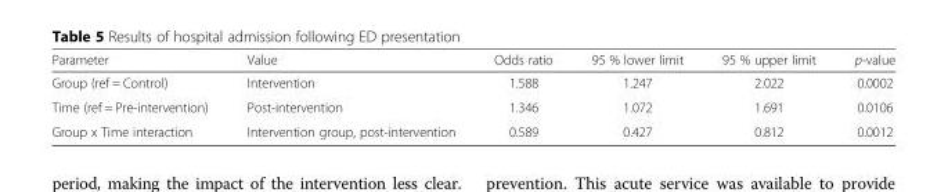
<table><thead><tr><td>Parameter</td><td>Value</td><td>Odds ratio</td><td>95 % lower limit</td><td>95 % upper limit</td><td>p-value</td></tr></thead><tbody><tr><td>Group (ref = Control)</td><td>Intervention</td><td>1.588</td><td>1.247</td><td>2.022</td><td>0.0002</td></tr><tr><td>Time (ref = Pre-intervention)</td><td>Post-intervention</td><td>1.346</td><td>1.072</td><td>1.691</td><td>0.0106</td></tr><tr><td>Group x Time interaction</td><td>Intervention group, post-intervention</td><td>0.589</td><td>0.427</td><td>0.812</td><td>0.0012</td></tr></tbody></table>